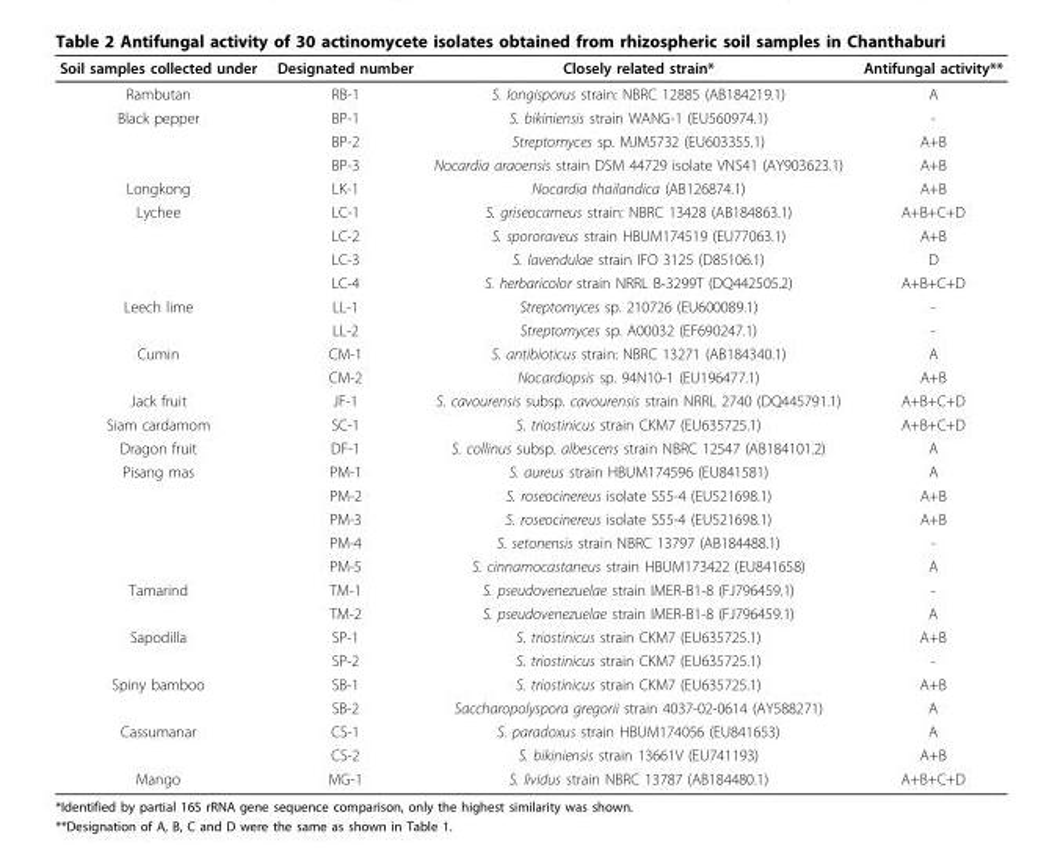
<table><thead><tr><td>Soil samples collected under</td><td>Designated number</td><td>Closely related strain*</td><td>Antifungal activity**</td></tr></thead><tbody><tr><td>Rambutan</td><td>RB-1</td><td>S. longisporus strain: NBRC 12885 (AB184219.1)</td><td>A</td></tr><tr><td rowspan="3">Black pepper</td><td>BP-1</td><td>S. bikiniensis strain WANG-1 (EU560974.1)</td><td>-</td></tr><tr><td>BP-2</td><td>Streptomyces sp. MJM5732 (EU603355.1)</td><td>A+B</td></tr><tr><td>BP-3</td><td>Nocardia araoensis strain DSM 44729 isolate VNS41 (AY903623.1)</td><td>A+B</td></tr><tr><td>Longkong</td><td>LK-1</td><td>Nocardia thailandica (AB126874.1)</td><td>A+B</td></tr><tr><td rowspan="4">Lychee</td><td>LC-1</td><td>S. griseocarneus strain: NBRC 13428 (AB184863.1)</td><td>A+B+C+D</td></tr><tr><td>LC-2</td><td>S. spororaveus strain HBUM174519 (EU77063.1)</td><td>A+B</td></tr><tr><td>LC-3</td><td>S. lavendulae strain IFO 3125 (D85106.1)</td><td>D</td></tr><tr><td>LC-4</td><td>S. herbaricolor strain NRRL B-3299T (DQ442505.2)</td><td>A+B+C+D</td></tr><tr><td rowspan="2">Leech lime</td><td>LL-1</td><td>Streptomyces sp. 210726 (EU600089.1)</td><td>-</td></tr><tr><td>LL-2</td><td>Streptomyces sp. A00032 (EF690247.1)</td><td>-</td></tr><tr><td rowspan="2">Cumin</td><td>CM-1</td><td>S. antibioticus strain: NBRC 13271 (AB184340.1)</td><td>A</td></tr><tr><td>CM-2</td><td>Nocardiopsis sp. 94N10-1 (EU196477.1)</td><td>A+B</td></tr><tr><td>Jack fruit</td><td>JF-1</td><td>S. cavourensis subsp. cavourensis strain NRRL 2740 (DQ445791.1)</td><td>A+B+C+D</td></tr><tr><td>Siam cardamom</td><td>SC-1</td><td>S. triostinicus strain CKM7 (EU635725.1)</td><td>A+B+C+D</td></tr><tr><td>Dragon fruit</td><td>DF-1</td><td>S. collinus subsp. albescens strain NBRC 12547 (AB184101.2)</td><td>A</td></tr><tr><td rowspan="5">Pisang mas</td><td>PM-1</td><td>S. aureus strain HBUM174596 (EU841581)</td><td>A</td></tr><tr><td>PM-2</td><td>S. roseocinereus isolate S55-4 (EU521698.1)</td><td>A+B</td></tr><tr><td>PM-3</td><td>S. roseocinereus isolate S55-4 (EU521698.1)</td><td>A+B</td></tr><tr><td>PM-4</td><td>S. setonensis strain NBRC 13797 (AB184488.1)</td><td>-</td></tr><tr><td>PM-5</td><td>S. cinnamocastaneus strain HBUM173422 (EU841658)</td><td>A</td></tr><tr><td rowspan="2">Tamarind</td><td>TM-1</td><td>S. pseudovenezuelae strain IMER-B1-8 (FJ796459.1)</td><td>-</td></tr><tr><td>TM-2</td><td>S. pseudovenezuelae strain IMER-B1-8 (FJ796459.1)</td><td>A</td></tr><tr><td rowspan="2">Sapodilla</td><td>SP-1</td><td>S. triostinicus strain CKM7 (EU635725.1)</td><td>A+B</td></tr><tr><td>SP-2</td><td>S. triostinicus strain CKM7 (EU635725.1)</td><td>-</td></tr><tr><td rowspan="2">Spiny bamboo</td><td>SB-1</td><td>S. triostinicus strain CKM7 (EU635725.1)</td><td>A+B</td></tr><tr><td>SB-2</td><td>Saccharopolyspora gregorii strain 4037-02-0614 (AY588271)</td><td>A</td></tr><tr><td rowspan="2">Cassumanar</td><td>CS-1</td><td>S. paradoxus strain HBUM174056 (EU841653)</td><td>A</td></tr><tr><td>CS-2</td><td>S. bikiniensis strain 13661V (EU741193)</td><td>A+B</td></tr><tr><td>Mango</td><td>MG-1</td><td>S. lividus strain NBRC 13787 (AB184480.1)</td><td>A+B+C+D</td></tr></tbody></table>